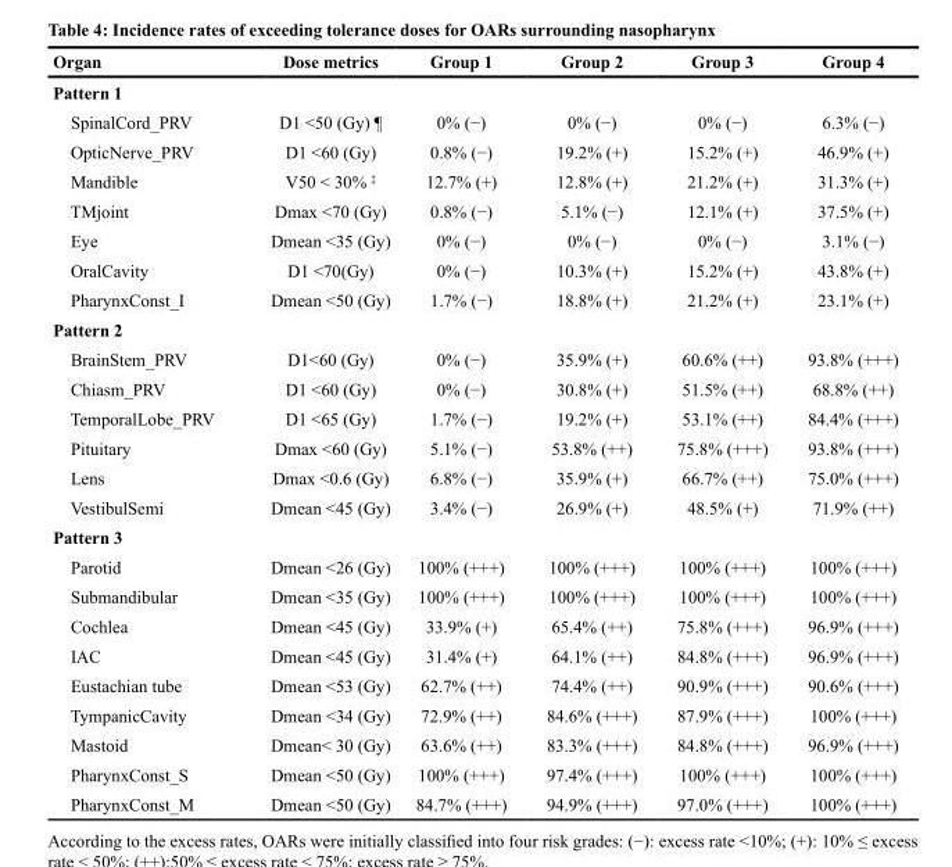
<table><thead><tr><td>Organ</td><td>Dose metrics</td><td>Group 1</td><td>Group 2</td><td>Group 3</td><td>Group 4</td></tr></thead><tbody><tr><td colspan="6">Pattern 1</td></tr><tr><td>SpinalCord_PRV</td><td>D1 &lt;50 (Gy) <sup>¶</sup></td><td>0% (−)</td><td>0% (−)</td><td>0% (−)</td><td>6.3% (−)</td></tr><tr><td>OpticNerve_PRV</td><td>D1 &lt;60 (Gy)</td><td>0.8% (−)</td><td>19.2% (+)</td><td>15.2% (+)</td><td>46.9% (+)</td></tr><tr><td>Mandible</td><td>V50 &lt; 30% <sup>‡</sup></td><td>12.7% (+)</td><td>12.8% (+)</td><td>21.2% (+)</td><td>31.3% (+)</td></tr><tr><td>TMjoint</td><td>Dmax &lt;70 (Gy)</td><td>0.8% (−)</td><td>5.1% (−)</td><td>12.1% (+)</td><td>37.5% (+)</td></tr><tr><td>Eye</td><td>Dmean &lt;35 (Gy)</td><td>0% (−)</td><td>0% (−)</td><td>0% (−)</td><td>3.1% (−)</td></tr><tr><td>OralCavity</td><td>D1 &lt;70(Gy)</td><td>0% (−)</td><td>10.3% (+)</td><td>15.2% (+)</td><td>43.8% (+)</td></tr><tr><td>PharynxConst_I</td><td>Dmean &lt;50 (Gy)</td><td>1.7% (−)</td><td>18.8% (+)</td><td>21.2% (+)</td><td>23.1% (+)</td></tr><tr><td colspan="6">Pattern 2</td></tr><tr><td>BrainStem_PRV</td><td>D1&lt;60 (Gy)</td><td>0% (−)</td><td>35.9% (+)</td><td>60.6% (++)</td><td>93.8% (+++)</td></tr><tr><td>Chiasm_PRV</td><td>D1 &lt;60 (Gy)</td><td>0% (−)</td><td>30.8% (+)</td><td>51.5% (++)</td><td>68.8% (++)</td></tr><tr><td>TemporalLobe_PRV</td><td>D1 &lt;65 (Gy)</td><td>1.7% (−)</td><td>19.2% (+)</td><td>53.1% (++)</td><td>84.4% (+++)</td></tr><tr><td>Pituitary</td><td>Dmax &lt;60 (Gy)</td><td>5.1% (−)</td><td>53.8% (++)</td><td>75.8% (+++)</td><td>93.8% (+++)</td></tr><tr><td>Lens</td><td>Dmax &lt;0.6 (Gy)</td><td>6.8% (−)</td><td>35.9% (+)</td><td>66.7% (++)</td><td>75.0% (+++)</td></tr><tr><td>VestibulSemi</td><td>Dmean &lt;45 (Gy)</td><td>3.4% (−)</td><td>26.9% (+)</td><td>48.5% (+)</td><td>71.9% (++)</td></tr><tr><td colspan="6">Pattern 3</td></tr><tr><td>Parotid</td><td>Dmean &lt;26 (Gy)</td><td>100% (+++)</td><td>100% (+++)</td><td>100% (+++)</td><td>100% (+++)</td></tr><tr><td>Submandibular</td><td>Dmean &lt;35 (Gy)</td><td>100% (+++)</td><td>100% (+++)</td><td>100% (+++)</td><td>100% (+++)</td></tr><tr><td>Cochlea</td><td>Dmean &lt;45 (Gy)</td><td>33.9% (+)</td><td>65.4% (++)</td><td>75.8% (+++)</td><td>96.9% (+++)</td></tr><tr><td>IAC</td><td>Dmean &lt;45 (Gy)</td><td>31.4% (+)</td><td>64.1% (++)</td><td>84.8% (+++)</td><td>96.9% (+++)</td></tr><tr><td>Eustachian tube</td><td>Dmean &lt;53 (Gy)</td><td>62.7% (++)</td><td>74.4% (++)</td><td>90.9% (+++)</td><td>90.6% (+++)</td></tr><tr><td>TympanicCavity</td><td>Dmean &lt;34 (Gy)</td><td>72.9% (++)</td><td>84.6% (+++)</td><td>87.9% (+++)</td><td>100% (+++)</td></tr><tr><td>Mastoid</td><td>Dmean&lt; 30 (Gy)</td><td>63.6% (++)</td><td>83.3% (+++)</td><td>84.8% (+++)</td><td>96.9% (+++)</td></tr><tr><td>PharynxConst_S</td><td>Dmean &lt;50 (Gy)</td><td>100% (+++)</td><td>97.4% (+++)</td><td>100% (+++)</td><td>100% (+++)</td></tr><tr><td>PharynxConst_M</td><td>Dmean &lt;50 (Gy)</td><td>84.7% (+++)</td><td>94.9% (+++)</td><td>97.0% (+++)</td><td>100% (+++)</td></tr></tbody></table>